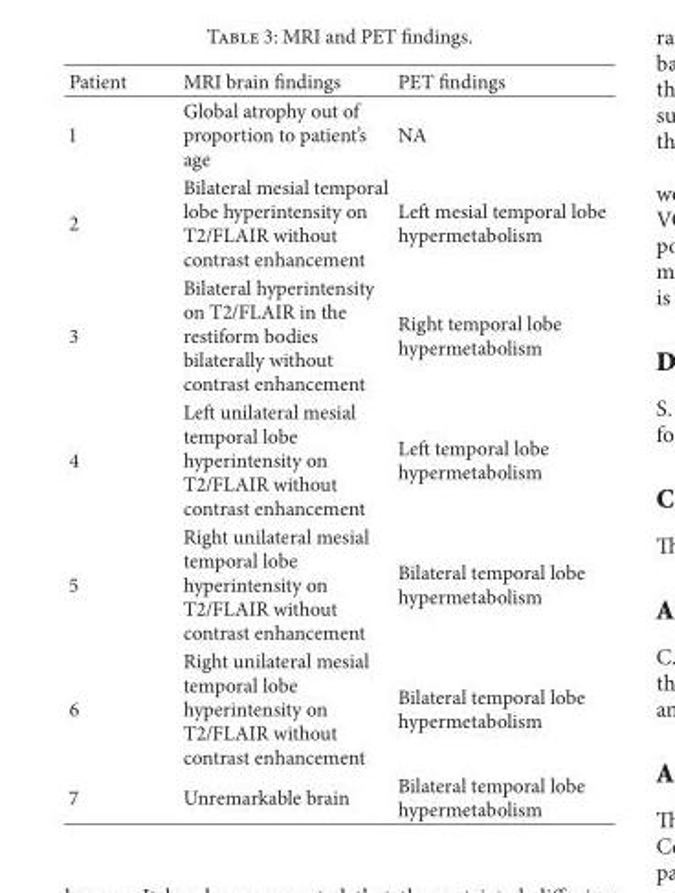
<table><thead><tr><td>Patient</td><td>MRI brain findings</td><td>PET findings</td></tr></thead><tbody><tr><td>1</td><td>Global atrophy out of proportion to patient’s age</td><td>NA</td></tr><tr><td>2</td><td>Bilateral mesial temporal lobe hyperintensity on T2/FLAIR without contrast enhancement</td><td>Left mesial temporal lobe hypermetabolism</td></tr><tr><td>3</td><td>Bilateral hyperintensity on T2/FLAIR in the restiform bodies bilaterally without contrast enhancement</td><td>Right temporal lobe hypermetabolism</td></tr><tr><td>4</td><td>Left unilateral mesial temporal lobe hyperintensity on T2/FLAIR without contrast enhancement</td><td>Left temporal lobe hypermetabolism</td></tr><tr><td>5</td><td>Right unilateral mesial temporal lobe hyperintensity on T2/FLAIR without contrast enhancement</td><td>Bilateral temporal lobe hypermetabolism</td></tr><tr><td>6</td><td>Right unilateral mesial temporal lobe hyperintensity on T2/FLAIR without contrast enhancement</td><td>Bilateral temporal lobe hypermetabolism</td></tr><tr><td>7</td><td>Unremarkable brain</td><td>Bilateral temporal lobe hypermetabolism</td></tr></tbody></table>